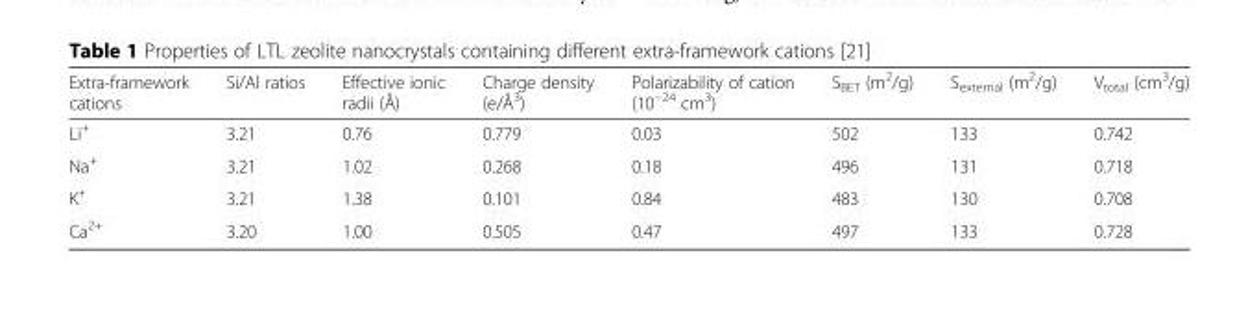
<table><thead><tr><td>Extra-framework cations</td><td>Si/Al ratios</td><td>Effective ionic radii (Å)</td><td>Charge density (e/Å<sup>3</sup>)</td><td>Polarizability of cation (10<sup>−24</sup> cm<sup>3</sup>)</td><td>S<sub>BET</sub> (m<sup>2</sup>/g)</td><td>S<sub>external</sub> (m<sup>2</sup>/g)</td><td>V<sub>total</sub> (cm<sup>3</sup>/g)</td></tr></thead><tbody><tr><td>Li<sup>+</sup></td><td>3.21</td><td>0.76</td><td>0.779</td><td>0.03</td><td>502</td><td>133</td><td>0.742</td></tr><tr><td>Na<sup>+</sup></td><td>3.21</td><td>1.02</td><td>0.268</td><td>0.18</td><td>496</td><td>131</td><td>0.718</td></tr><tr><td>K<sup>+</sup></td><td>3.21</td><td>1.38</td><td>0.101</td><td>0.84</td><td>483</td><td>130</td><td>0.708</td></tr><tr><td>Ca<sup>2+</sup></td><td>3.20</td><td>1.00</td><td>0.505</td><td>0.47</td><td>497</td><td>133</td><td>0.728</td></tr></tbody></table>